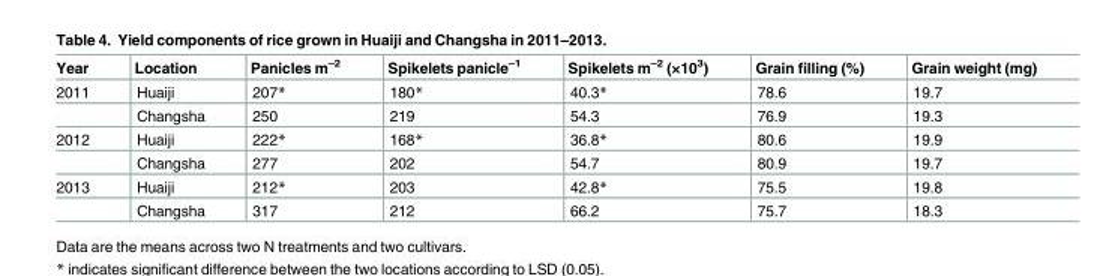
<table><thead><tr><td>Year</td><td>Location</td><td>Panicles m<sup>–2</sup></td><td>Spikelets panicle<sup>–1</sup></td><td>Spikelets m<sup>–2</sup> (×10<sup>3</sup>)</td><td>Grain filling (%)</td><td>Grain weight (mg)</td></tr></thead><tbody><tr><td rowspan="2">2011</td><td>Huaiji</td><td>207*</td><td>180*</td><td>40.3*</td><td>78.6</td><td>19.7</td></tr><tr><td>Changsha</td><td>250</td><td>219</td><td>54.3</td><td>76.9</td><td>19.3</td></tr><tr><td rowspan="2">2012</td><td>Huaiji</td><td>222*</td><td>168*</td><td>36.8*</td><td>80.6</td><td>19.9</td></tr><tr><td>Changsha</td><td>277</td><td>202</td><td>54.7</td><td>80.9</td><td>19.7</td></tr><tr><td rowspan="2">2013</td><td>Huaiji</td><td>212*</td><td>203</td><td>42.8*</td><td>75.5</td><td>19.8</td></tr><tr><td>Changsha</td><td>317</td><td>212</td><td>66.2</td><td>75.7</td><td>18.3</td></tr></tbody></table>